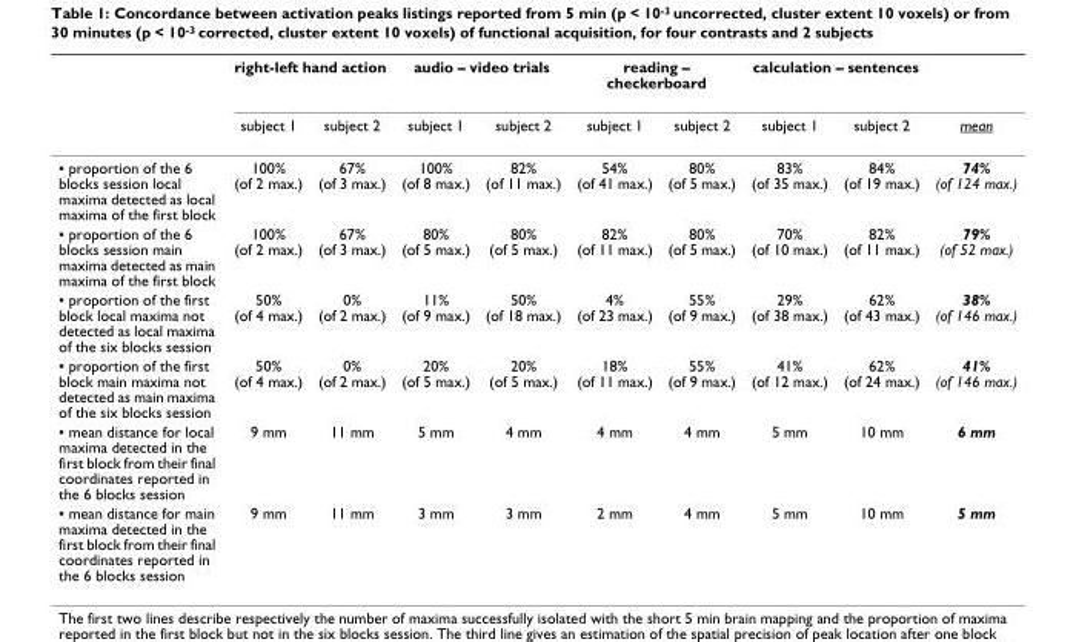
<table><thead><tr><td rowspan="2"></td><td colspan="2">right-left hand action</td><td colspan="2">audio – video trials</td><td colspan="2">reading – checkerboard</td><td colspan="2">calculation – sentences</td><td rowspan="2">mean</td></tr><tr><td>subject 1</td><td>subject 2</td><td>subject 1</td><td>subject 2</td><td>subject 1</td><td>subject 2</td><td>subject 1</td><td>subject 2</td></tr></thead><tbody><tr><td>▪ proportion of the 6 blocks session local maxima detected as local maxima of the first block</td><td>100% (of 2 max.)</td><td>67% (of 3 max.)</td><td>100% (of 8 max.)</td><td>82% (of 11 max.)</td><td>54% (of 41 max.)</td><td>80% (of 5 max.)</td><td>83% (of 35 max.)</td><td>84% (of 19 max.)</td><td>74% (of 124 max.)</td></tr><tr><td>▪ proportion of the 6 blocks session main maxima detected as main maxima of the first block</td><td>100% (of 2 max.)</td><td>67% (of 3 max.)</td><td>80% (of 5 max.)</td><td>80% (of 5 max.)</td><td>82% (of 11 max.)</td><td>80% (of 5 max.)</td><td>70% (of 10 max.)</td><td>82% (of 11 max.)</td><td>79% (of 52 max.)</td></tr><tr><td>▪ proportion of the first block local maxima not detected as local maxima of the six blocks session</td><td>50% (of 4 max.)</td><td>0% (of 2 max.)</td><td>11% (of 9 max.)</td><td>50% (of 18 max.)</td><td>4% (of 23 max.)</td><td>55% (of 9 max.)</td><td>29% (of 38 max.)</td><td>62% (of 43 max.)</td><td>38% (of 146 max.)</td></tr><tr><td>▪ proportion of the first block main maxima not detected as main maxima of the six blocks session</td><td>50% (of 4 max.)</td><td>0% (of 2 max.)</td><td>20% (of 5 max.)</td><td>20% (of 5 max.)</td><td>18% (of 11 max.)</td><td>55% (of 9 max.)</td><td>41% (of 12 max.)</td><td>62% (of 24 max.)</td><td>41% (of 146 max.)</td></tr><tr><td>▪ mean distance for local maxima detected in the first block from their final coordinates reported in the 6 blocks session</td><td>9 mm</td><td>11 mm</td><td>5 mm</td><td>4 mm</td><td>4 mm</td><td>4 mm</td><td>5 mm</td><td>10 mm</td><td>6 mm</td></tr><tr><td>▪ mean distance for main maxima detected in the first block from their final coordinates reported in the 6 blocks session</td><td>9 mm</td><td>11 mm</td><td>3 mm</td><td>3 mm</td><td>2 mm</td><td>4 mm</td><td>5 mm</td><td>10 mm</td><td>5 mm</td></tr></tbody></table>